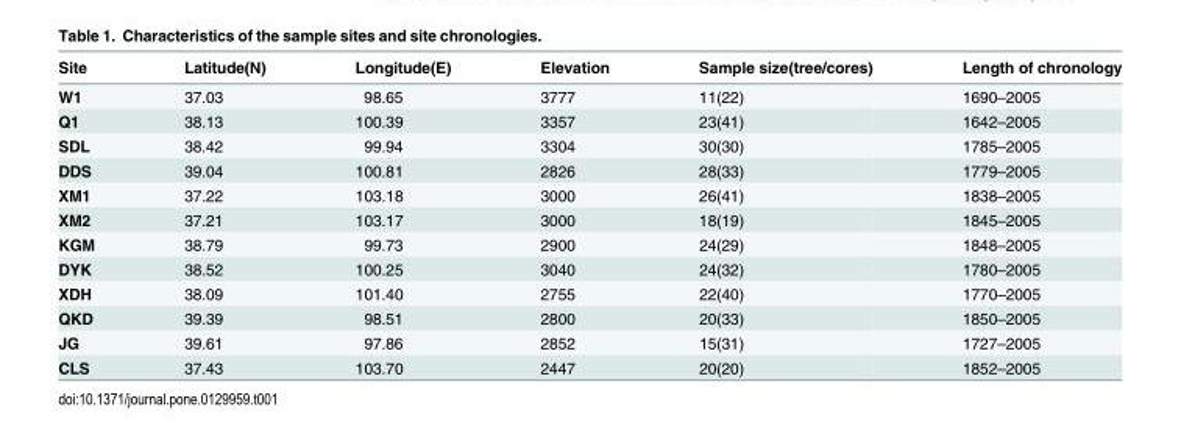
<table><thead><tr><td>Site</td><td>Latitude(N)</td><td>Longitude(E)</td><td>Elevation</td><td>Sample size(tree/cores)</td><td>Length of chronology</td></tr></thead><tbody><tr><td>W1</td><td>37.03</td><td>98.65</td><td>3777</td><td>11(22)</td><td>1690–2005</td></tr><tr><td>Q1</td><td>38.13</td><td>100.39</td><td>3357</td><td>23(41)</td><td>1642–2005</td></tr><tr><td>SDL</td><td>38.42</td><td>99.94</td><td>3304</td><td>30(30)</td><td>1785–2005</td></tr><tr><td>DDS</td><td>39.04</td><td>100.81</td><td>2826</td><td>28(33)</td><td>1779–2005</td></tr><tr><td>XM1</td><td>37.22</td><td>103.18</td><td>3000</td><td>26(41)</td><td>1838–2005</td></tr><tr><td>XM2</td><td>37.21</td><td>103.17</td><td>3000</td><td>18(19)</td><td>1845–2005</td></tr><tr><td>KGM</td><td>38.79</td><td>99.73</td><td>2900</td><td>24(29)</td><td>1848–2005</td></tr><tr><td>DYK</td><td>38.52</td><td>100.25</td><td>3040</td><td>24(32)</td><td>1780–2005</td></tr><tr><td>XDH</td><td>38.09</td><td>101.40</td><td>2755</td><td>22(40)</td><td>1770–2005</td></tr><tr><td>QKD</td><td>39.39</td><td>98.51</td><td>2800</td><td>20(33)</td><td>1850–2005</td></tr><tr><td>JG</td><td>39.61</td><td>97.86</td><td>2852</td><td>15(31)</td><td>1727–2005</td></tr><tr><td>CLS</td><td>37.43</td><td>103.70</td><td>2447</td><td>20(20)</td><td>1852–2005</td></tr></tbody></table>